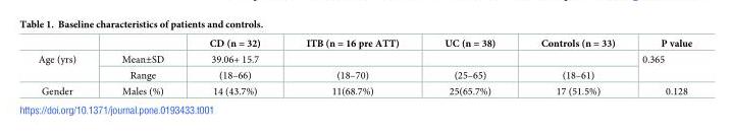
<table><thead><tr><td></td><td></td><td>CD (n = 32)</td><td>ITB (n = 16 pre ATT)</td><td>UC (n = 38)</td><td>Controls (n = 33)</td><td>P value</td></tr></thead><tbody><tr><td rowspan="2">Age (yrs)</td><td>Mean±SD</td><td>39.06+ 15.7</td><td></td><td></td><td></td><td rowspan="2">0.365</td></tr><tr><td>Range</td><td>(18–66)</td><td>(18–70)</td><td>(25–65)</td><td>(18–61)</td></tr><tr><td>Gender</td><td>Males (%)</td><td>14 (43.7%)</td><td>11(68.7%)</td><td>25(65.7%)</td><td>17 (51.5%)</td><td>0.128</td></tr></tbody></table>